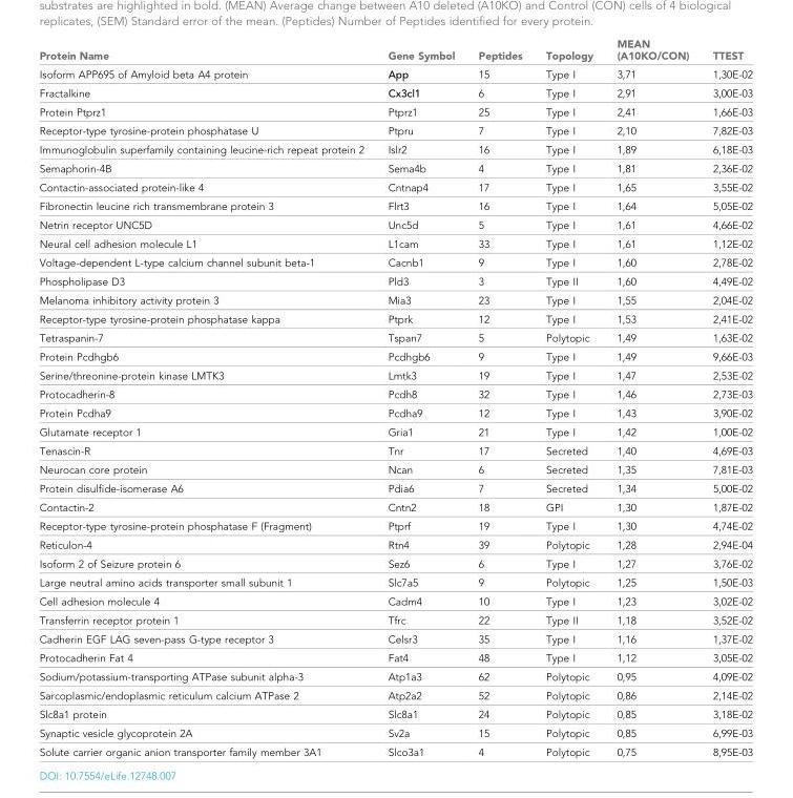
<table><thead><tr><td>Protein Name</td><td>Gene Symbol</td><td>Peptides</td><td>Topology</td><td>MEAN (A10KO/CON)</td><td>TTEST</td></tr></thead><tbody><tr><td>Isoform APP695 of Amyloid beta A4 protein</td><td>App</td><td>15</td><td>Type I</td><td>3,71</td><td>1,30E-02</td></tr><tr><td>Fractalkine</td><td>Cx3cl1</td><td>6</td><td>Type I</td><td>2,91</td><td>3,00E-03</td></tr><tr><td>Protein Ptprz1</td><td>Ptprz1</td><td>25</td><td>Type I</td><td>2,41</td><td>1,66E-03</td></tr><tr><td>Receptor-type tyrosine-protein phosphatase U</td><td>Ptpru</td><td>7</td><td>Type I</td><td>2,10</td><td>7,82E-03</td></tr><tr><td>Immunoglobulin superfamily containing leucine-rich repeat protein 2</td><td>Islr2</td><td>16</td><td>Type I</td><td>1,89</td><td>6,18E-03</td></tr><tr><td>Semaphorin-4B</td><td>Sema4b</td><td>4</td><td>Type I</td><td>1,81</td><td>2,36E-02</td></tr><tr><td>Contactin-associated protein-like 4</td><td>Cntnap4</td><td>17</td><td>Type I</td><td>1,65</td><td>3,55E-02</td></tr><tr><td>Fibronectin leucine rich transmembrane protein 3</td><td>Flrt3</td><td>16</td><td>Type I</td><td>1,64</td><td>5,05E-02</td></tr><tr><td>Netrin receptor UNC5D</td><td>Unc5d</td><td>5</td><td>Type I</td><td>1,61</td><td>4,66E-02</td></tr><tr><td>Neural cell adhesion molecule L1</td><td>L1cam</td><td>33</td><td>Type I</td><td>1,61</td><td>1,12E-02</td></tr><tr><td>Voltage-dependent L-type calcium channel subunit beta-1</td><td>Cacnb1</td><td>9</td><td>Type I</td><td>1,60</td><td>2,78E-02</td></tr><tr><td>Phospholipase D3</td><td>Pld3</td><td>3</td><td>Type II</td><td>1,60</td><td>4,49E-02</td></tr><tr><td>Melanoma inhibitory activity protein 3</td><td>Mia3</td><td>23</td><td>Type I</td><td>1,55</td><td>2,04E-02</td></tr><tr><td>Receptor-type tyrosine-protein phosphatase kappa</td><td>Ptprk</td><td>12</td><td>Type I</td><td>1,53</td><td>2,41E-02</td></tr><tr><td>Tetraspanin-7</td><td>Tspan7</td><td>5</td><td>Polytopic</td><td>1,49</td><td>1,63E-02</td></tr><tr><td>Protein Pcdhgb6</td><td>Pcdhgb6</td><td>9</td><td>Type I</td><td>1,49</td><td>9,66E-03</td></tr><tr><td>Serine/threonine-protein kinase LMTK3</td><td>Lmtk3</td><td>19</td><td>Type I</td><td>1,47</td><td>2,53E-02</td></tr><tr><td>Protocadherin-8</td><td>Pcdh8</td><td>32</td><td>Type I</td><td>1,46</td><td>2,73E-03</td></tr><tr><td>Protein Pcdha9</td><td>Pcdha9</td><td>12</td><td>Type I</td><td>1,43</td><td>3,90E-02</td></tr><tr><td>Glutamate receptor 1</td><td>Gria1</td><td>21</td><td>Type I</td><td>1,42</td><td>1,00E-02</td></tr><tr><td>Tenascin-R</td><td>Tnr</td><td>17</td><td>Secreted</td><td>1,40</td><td>4,69E-03</td></tr><tr><td>Neurocan core protein</td><td>Ncan</td><td>6</td><td>Secreted</td><td>1,35</td><td>7,81E-03</td></tr><tr><td>Protein disulfide-isomerase A6</td><td>Pdia6</td><td>7</td><td>Secreted</td><td>1,34</td><td>5,00E-02</td></tr><tr><td>Contactin-2</td><td>Cntn2</td><td>18</td><td>GPI</td><td>1,30</td><td>1,87E-02</td></tr><tr><td>Receptor-type tyrosine-protein phosphatase F (Fragment)</td><td>Ptprf</td><td>19</td><td>Type I</td><td>1,30</td><td>4,74E-02</td></tr><tr><td>Reticulon-4</td><td>Rtn4</td><td>39</td><td>Polytopic</td><td>1,28</td><td>2,94E-04</td></tr><tr><td>Isoform 2 of Seizure protein 6</td><td>Sez6</td><td>6</td><td>Type I</td><td>1,27</td><td>3,76E-02</td></tr><tr><td>Large neutral amino acids transporter small subunit 1</td><td>Slc7a5</td><td>9</td><td>Polytopic</td><td>1,25</td><td>1,50E-03</td></tr><tr><td>Cell adhesion molecule 4</td><td>Cadm4</td><td>10</td><td>Type I</td><td>1,23</td><td>3,02E-02</td></tr><tr><td>Transferrin receptor protein 1</td><td>Tfrc</td><td>22</td><td>Type II</td><td>1,18</td><td>3,52E-02</td></tr><tr><td>Cadherin EGF LAG seven-pass G-type receptor 3</td><td>Celsr3</td><td>35</td><td>Type I</td><td>1,16</td><td>1,37E-02</td></tr><tr><td>Protocadherin Fat 4</td><td>Fat4</td><td>48</td><td>Type I</td><td>1,12</td><td>3,05E-02</td></tr><tr><td>Sodium/potassium-transporting ATPase subunit alpha-3</td><td>Atp1a3</td><td>62</td><td>Polytopic</td><td>0,95</td><td>4,09E-02</td></tr><tr><td>Sarcoplasmic/endoplasmic reticulum calcium ATPase 2</td><td>Atp2a2</td><td>52</td><td>Polytopic</td><td>0,86</td><td>2,14E-02</td></tr><tr><td>Slc8a1 protein</td><td>Slc8a1</td><td>24</td><td>Polytopic</td><td>0,85</td><td>3,18E-02</td></tr><tr><td>Synaptic vesicle glycoprotein 2A</td><td>Sv2a</td><td>15</td><td>Polytopic</td><td>0,85</td><td>6,99E-03</td></tr><tr><td>Solute carrier organic anion transporter family member 3A1</td><td>Slco3a1</td><td>4</td><td>Polytopic</td><td>0,75</td><td>8,95E-03</td></tr></tbody></table>